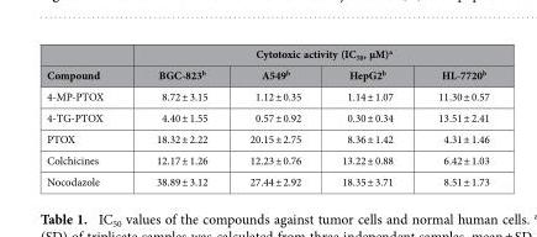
<table><thead><tr><td rowspan="2">Compound</td><td colspan="4">Cytotoxic activity (IC<sub>50</sub>, μM)<sup>a</sup></td></tr><tr><td>BGC-823<sup>b</sup></td><td>A549<sup>b</sup></td><td>HepG2<sup>b</sup></td><td>HL-7720<sup>b</sup></td></tr></thead><tbody><tr><td>4-MP-PTOX</td><td>8.72 ± 3.15</td><td>1.12 ± 0.35</td><td>1.14 ± 1.07</td><td>11.30 ± 0.57</td></tr><tr><td>4-TG-PTOX</td><td>4.40 ± 1.55</td><td>0.57 ± 0.92</td><td>0.30 ± 0.34</td><td>13.51 ± 2.41</td></tr><tr><td>PTOX</td><td>18.32 ± 2.22</td><td>20.15 ± 2.75</td><td>8.36 ± 1.42</td><td>4.31 ± 1.46</td></tr><tr><td>Colchicines</td><td>12.17 ± 1.26</td><td>12.23 ± 0.76</td><td>13.22 ± 0.88</td><td>6.42 ± 1.03</td></tr><tr><td>Nocodazole</td><td>38.89 ± 3.12</td><td>27.44 ± 2.92</td><td>18.35 ± 3.71</td><td>8.51 ± 1.73</td></tr></tbody></table>